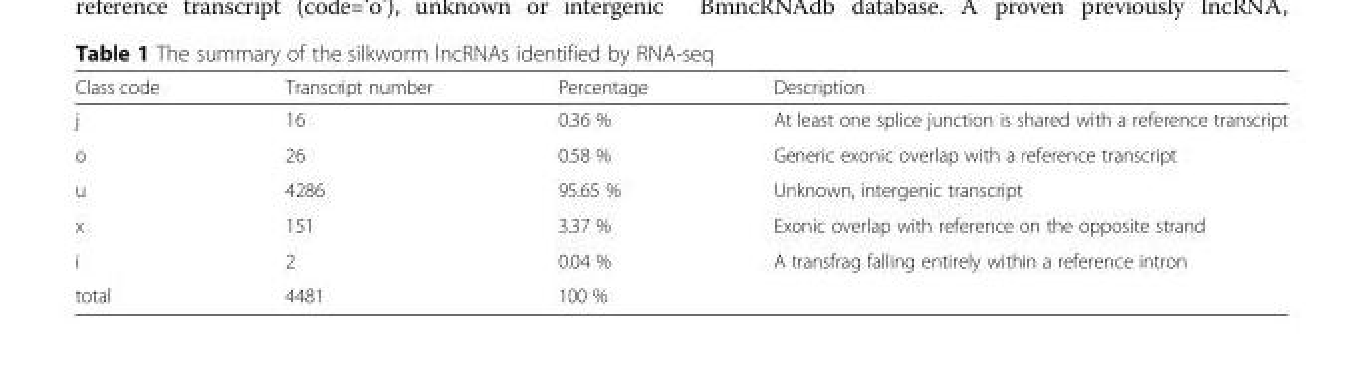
<table><thead><tr><td>Class code</td><td>Transcript number</td><td>Percentage</td><td>Description</td></tr></thead><tbody><tr><td>j</td><td>16</td><td>0.36 %</td><td>At least one splice junction is shared with a reference transcript</td></tr><tr><td>o</td><td>26</td><td>0.58 %</td><td>Generic exonic overlap with a reference transcript</td></tr><tr><td>u</td><td>4286</td><td>95.65 %</td><td>Unknown, intergenic transcript</td></tr><tr><td>x</td><td>151</td><td>3.37 %</td><td>Exonic overlap with reference on the opposite strand</td></tr><tr><td>i</td><td>2</td><td>0.04 %</td><td>A transfrag falling entirely within a reference intron</td></tr><tr><td>total</td><td>4481</td><td>100 %</td><td></td></tr></tbody></table>